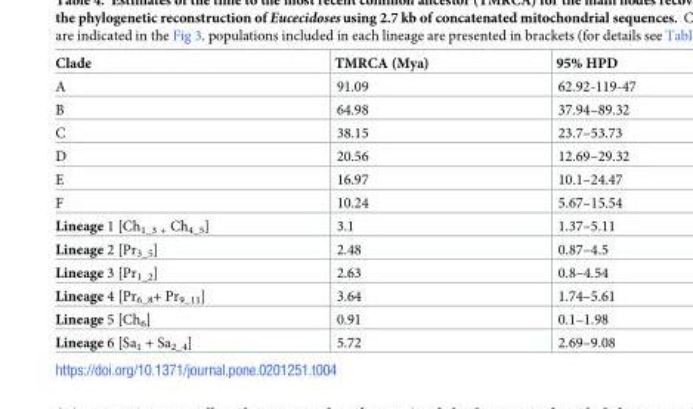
<table><thead><tr><td>Clade</td><td>TMRCA (Mya)</td><td>95% HPD</td></tr></thead><tbody><tr><td>A</td><td>91.09</td><td>62.92-119-47</td></tr><tr><td>B</td><td>64.98</td><td>37.94–89.32</td></tr><tr><td>C</td><td>38.15</td><td>23.7–53.73</td></tr><tr><td>D</td><td>20.56</td><td>12.69–29.32</td></tr><tr><td>E</td><td>16.97</td><td>10.1–24.47</td></tr><tr><td>F</td><td>10.24</td><td>5.67–15.54</td></tr><tr><td>Lineage 1 [Ch<sub>1_3 +</sub> Ch<sub>4_5</sub>]</td><td>3.1</td><td>1.37–5.11</td></tr><tr><td>Lineage 2 [Pr<sub>3_5</sub>]</td><td>2.48</td><td>0.87–4.5</td></tr><tr><td>Lineage 3 [Pr<sub>1_2</sub>]</td><td>2.63</td><td>0.8–4.54</td></tr><tr><td>Lineage 4 [Pr<sub>6_8</sub>+ Pr<sub>9_11</sub>]</td><td>3.64</td><td>1.74–5.61</td></tr><tr><td>Lineage 5 [Ch<sub>6</sub>]</td><td>0.91</td><td>0.1–1.98</td></tr><tr><td>Lineage 6 [Sa<sub>1</sub> + Sa<sub>2_4</sub>]</td><td>5.72</td><td>2.69–9.08</td></tr></tbody></table>